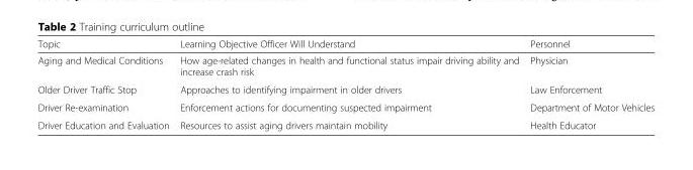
<table><thead><tr><td>Topic</td><td>Learning Objective Officer Will Understand</td><td>Personnel</td></tr></thead><tbody><tr><td>Aging and Medical Conditions</td><td>How age-related changes in health and functional status impair driving ability and increase crash risk</td><td>Physician</td></tr><tr><td>Older Driver Traffic Stop</td><td>Approaches to identifying impairment in older drivers</td><td>Law Enforcement</td></tr><tr><td>Driver Re-examination</td><td>Enforcement actions for documenting suspected impairment</td><td>Department of Motor Vehicles</td></tr><tr><td>Driver Education and Evaluation</td><td>Resources to assist aging drivers maintain mobility</td><td>Health Educator</td></tr></tbody></table>